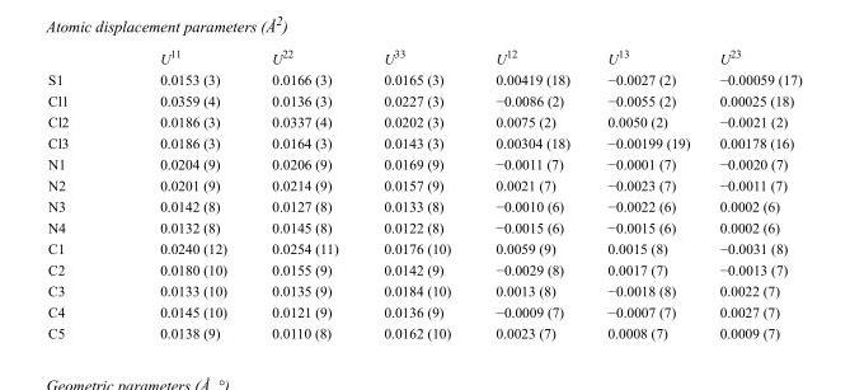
<table><thead><tr><td></td><td>U<sup>11</sup></td><td>U<sup>22</sup></td><td>U<sup>33</sup></td><td>U<sup>12</sup></td><td>U<sup>13</sup></td><td>U<sup>23</sup></td></tr></thead><tbody><tr><td>S1</td><td>0.0153 (3)</td><td>0.0166 (3)</td><td>0.0165 (3)</td><td>0.00419 (18)</td><td>−0.0027 (2)</td><td>−0.00059 (17)</td></tr><tr><td>Cl1</td><td>0.0359 (4)</td><td>0.0136 (3)</td><td>0.0227 (3)</td><td>−0.0086 (2)</td><td>−0.0055 (2)</td><td>0.00025 (18)</td></tr><tr><td>Cl2</td><td>0.0186 (3)</td><td>0.0337 (4)</td><td>0.0202 (3)</td><td>0.0075 (2)</td><td>0.0050 (2)</td><td>−0.0021 (2)</td></tr><tr><td>Cl3</td><td>0.0186 (3)</td><td>0.0164 (3)</td><td>0.0143 (3)</td><td>0.00304 (18)</td><td>−0.00199 (19)</td><td>0.00178 (16)</td></tr><tr><td>N1</td><td>0.0204 (9)</td><td>0.0206 (9)</td><td>0.0169 (9)</td><td>−0.0011 (7)</td><td>−0.0001 (7)</td><td>−0.0020 (7)</td></tr><tr><td>N2</td><td>0.0201 (9)</td><td>0.0214 (9)</td><td>0.0157 (9)</td><td>0.0021 (7)</td><td>−0.0023 (7)</td><td>−0.0011 (7)</td></tr><tr><td>N3</td><td>0.0142 (8)</td><td>0.0127 (8)</td><td>0.0133 (8)</td><td>−0.0010 (6)</td><td>−0.0022 (6)</td><td>0.0002 (6)</td></tr><tr><td>N4</td><td>0.0132 (8)</td><td>0.0145 (8)</td><td>0.0122 (8)</td><td>−0.0015 (6)</td><td>−0.0015 (6)</td><td>0.0002 (6)</td></tr><tr><td>C1</td><td>0.0240 (12)</td><td>0.0254 (11)</td><td>0.0176 (10)</td><td>0.0059 (9)</td><td>0.0015 (8)</td><td>−0.0031 (8)</td></tr><tr><td>C2</td><td>0.0180 (10)</td><td>0.0155 (9)</td><td>0.0142 (9)</td><td>−0.0029 (8)</td><td>0.0017 (7)</td><td>−0.0013 (7)</td></tr><tr><td>C3</td><td>0.0133 (10)</td><td>0.0135 (9)</td><td>0.0184 (10)</td><td>0.0013 (8)</td><td>−0.0018 (8)</td><td>0.0022 (7)</td></tr><tr><td>C4</td><td>0.0145 (10)</td><td>0.0121 (9)</td><td>0.0136 (9)</td><td>−0.0009 (7)</td><td>−0.0007 (7)</td><td>0.0027 (7)</td></tr><tr><td>C5</td><td>0.0138 (9)</td><td>0.0110 (8)</td><td>0.0162 (10)</td><td>0.0023 (7)</td><td>0.0008 (7)</td><td>0.0009 (7)</td></tr></tbody></table>